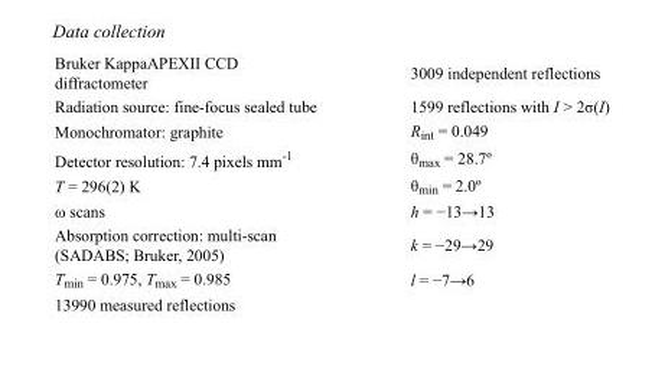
<table><tbody><tr><td>Bruker KappaAPEXII CCD diffractometer</td><td>3009 independent reflections</td></tr><tr><td>Radiation source: fine-focus sealed tube</td><td>1599 reflections with I &gt; 2σ(I)</td></tr><tr><td>Monochromator: graphite</td><td>R<sub>int</sub> = 0.049</td></tr><tr><td>Detector resolution: 7.4 pixels mm<sup>-1</sup></td><td>θ<sub>max</sub> = 28.7º</td></tr><tr><td>T = 296(2) K</td><td>θ<sub>min</sub> = 2.0º</td></tr><tr><td>ω scans</td><td>h = −13→13</td></tr><tr><td>Absorption correction: multi-scan (SADABS; Bruker, 2005)</td><td>k = −29→29</td></tr><tr><td>T<sub>min</sub> = 0.975, T<sub>max</sub> = 0.985</td><td>l = −7→6</td></tr><tr><td>13990 measured reflections</td><td></td></tr></tbody></table>